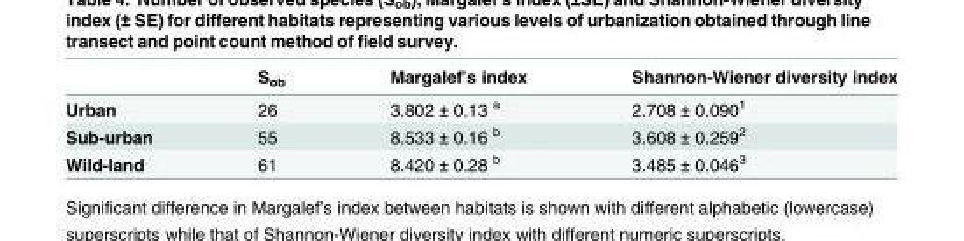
<table><thead><tr><td></td><td>S<sub>ob</sub></td><td>Margalef’s index</td><td>Shannon-Wiener diversity index</td></tr></thead><tbody><tr><td>Urban</td><td>26</td><td>3.802 ± 0.13 <sup>a</sup></td><td>2.708 ± 0.090<sup>1</sup></td></tr><tr><td>Sub-urban</td><td>55</td><td>8.533 ± 0.16 <sup>b</sup></td><td>3.608 ± 0.259<sup>2</sup></td></tr><tr><td>Wild-land</td><td>61</td><td>8.420 ± 0.28 <sup>b</sup></td><td>3.485 ± 0.046<sup>3</sup></td></tr></tbody></table>